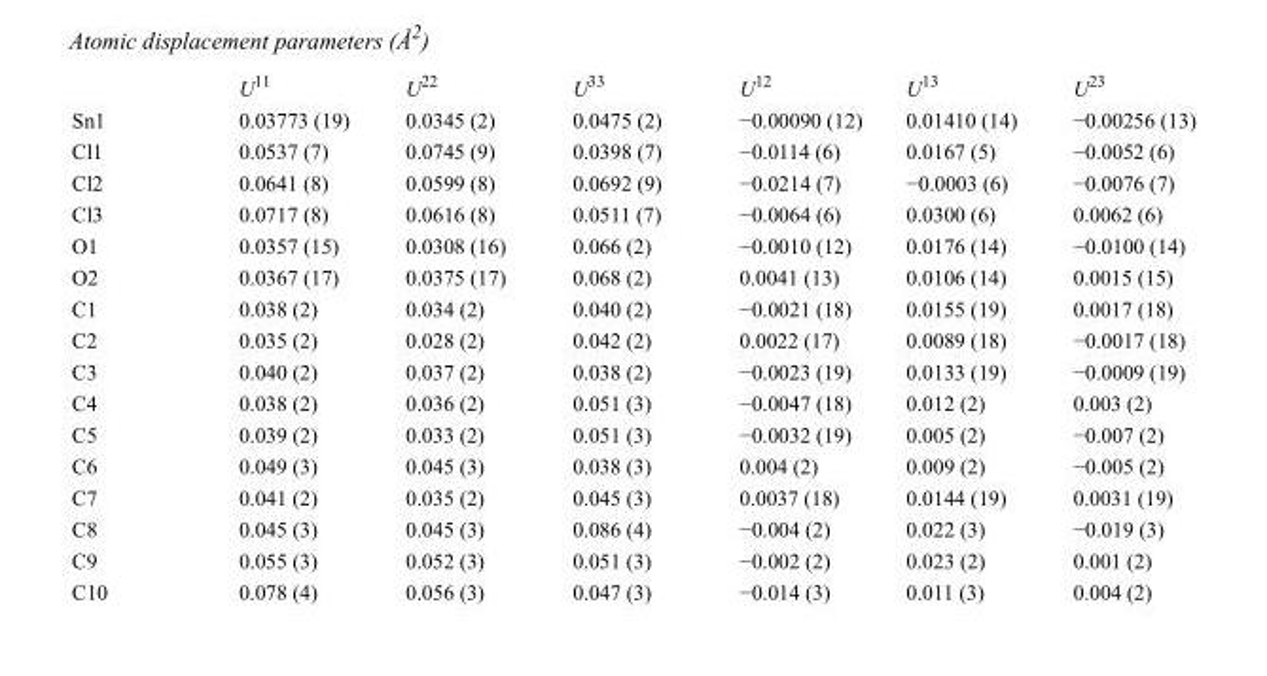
<table><thead><tr><td></td><td>U<sup>11</sup></td><td>U<sup>22</sup></td><td>U<sup>33</sup></td><td>U<sup>12</sup></td><td>U<sup>13</sup></td><td>U<sup>23</sup></td></tr></thead><tbody><tr><td>Sn1</td><td>0.03773 (19)</td><td>0.0345 (2)</td><td>0.0475 (2)</td><td>−0.00090 (12)</td><td>0.01410 (14)</td><td>−0.00256 (13)</td></tr><tr><td>Cl1</td><td>0.0537 (7)</td><td>0.0745 (9)</td><td>0.0398 (7)</td><td>−0.0114 (6)</td><td>0.0167 (5)</td><td>−0.0052 (6)</td></tr><tr><td>Cl2</td><td>0.0641 (8)</td><td>0.0599 (8)</td><td>0.0692 (9)</td><td>−0.0214 (7)</td><td>−0.0003 (6)</td><td>−0.0076 (7)</td></tr><tr><td>Cl3</td><td>0.0717 (8)</td><td>0.0616 (8)</td><td>0.0511 (7)</td><td>−0.0064 (6)</td><td>0.0300 (6)</td><td>0.0062 (6)</td></tr><tr><td>O1</td><td>0.0357 (15)</td><td>0.0308 (16)</td><td>0.066 (2)</td><td>−0.0010 (12)</td><td>0.0176 (14)</td><td>−0.0100 (14)</td></tr><tr><td>O2</td><td>0.0367 (17)</td><td>0.0375 (17)</td><td>0.068 (2)</td><td>0.0041 (13)</td><td>0.0106 (14)</td><td>0.0015 (15)</td></tr><tr><td>C1</td><td>0.038 (2)</td><td>0.034 (2)</td><td>0.040 (2)</td><td>−0.0021 (18)</td><td>0.0155 (19)</td><td>0.0017 (18)</td></tr><tr><td>C2</td><td>0.035 (2)</td><td>0.028 (2)</td><td>0.042 (2)</td><td>0.0022 (17)</td><td>0.0089 (18)</td><td>−0.0017 (18)</td></tr><tr><td>C3</td><td>0.040 (2)</td><td>0.037 (2)</td><td>0.038 (2)</td><td>−0.0023 (19)</td><td>0.0133 (19)</td><td>−0.0009 (19)</td></tr><tr><td>C4</td><td>0.038 (2)</td><td>0.036 (2)</td><td>0.051 (3)</td><td>−0.0047 (18)</td><td>0.012 (2)</td><td>0.003 (2)</td></tr><tr><td>C5</td><td>0.039 (2)</td><td>0.033 (2)</td><td>0.051 (3)</td><td>−0.0032 (19)</td><td>0.005 (2)</td><td>−0.007 (2)</td></tr><tr><td>C6</td><td>0.049 (3)</td><td>0.045 (3)</td><td>0.038 (3)</td><td>0.004 (2)</td><td>0.009 (2)</td><td>−0.005 (2)</td></tr><tr><td>C7</td><td>0.041 (2)</td><td>0.035 (2)</td><td>0.045 (3)</td><td>0.0037 (18)</td><td>0.0144 (19)</td><td>0.0031 (19)</td></tr><tr><td>C8</td><td>0.045 (3)</td><td>0.045 (3)</td><td>0.086 (4)</td><td>−0.004 (2)</td><td>0.022 (3)</td><td>−0.019 (3)</td></tr><tr><td>C9</td><td>0.055 (3)</td><td>0.052 (3)</td><td>0.051 (3)</td><td>−0.002 (2)</td><td>0.023 (2)</td><td>0.001 (2)</td></tr><tr><td>C10</td><td>0.078 (4)</td><td>0.056 (3)</td><td>0.047 (3)</td><td>−0.014 (3)</td><td>0.011 (3)</td><td>0.004 (2)</td></tr></tbody></table>